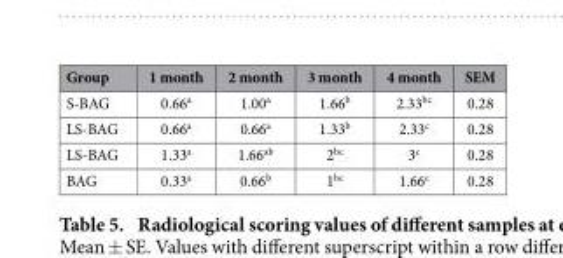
<table><thead><tr><td>Group</td><td>1 month</td><td>2 month</td><td>3 month</td><td>4 month</td><td>SEM</td></tr></thead><tbody><tr><td>S-BAG</td><td>0.66<sup>a</sup></td><td>1.00<sup>a</sup></td><td>1.66<sup>b</sup></td><td>2.33<sup>bc</sup></td><td>0.28</td></tr><tr><td>LS-BAG</td><td>0.66<sup>a</sup></td><td>0.66<sup>a</sup></td><td>1.33<sup>b</sup></td><td>2.33<sup>c</sup></td><td>0.28</td></tr><tr><td>LS-BAG</td><td>1.33<sup>a</sup></td><td>1.66<sup>ab</sup></td><td>2<sup>bc</sup></td><td>3<sup>c</sup></td><td>0.28</td></tr><tr><td>BAG</td><td>0.33<sup>a</sup></td><td>0.66<sup>b</sup></td><td>1<sup>bc</sup></td><td>1.66<sup>c</sup></td><td>0.28</td></tr></tbody></table>